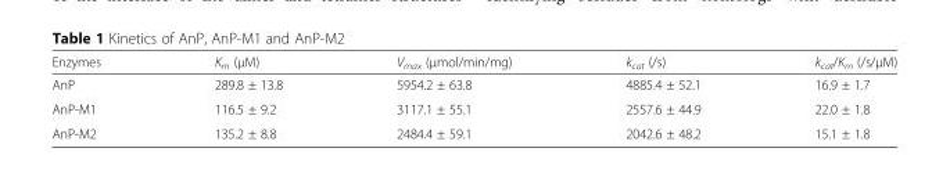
<table><thead><tr><td>Enzymes</td><td>K<sub>m</sub> (μM)</td><td>V<sub>max</sub> (μmol/min/mg)</td><td>k<sub>cat</sub> (/s)</td><td>k<sub>cat</sub>/K<sub>m</sub> (/s/μM)</td></tr></thead><tbody><tr><td>AnP</td><td>289.8 ± 13.8</td><td>5954.2 ± 63.8</td><td>4885.4 ± 52.1</td><td>16.9 ± 1.7</td></tr><tr><td>AnP-M1</td><td>116.5 ± 9.2</td><td>3117.1 ± 55.1</td><td>2557.6 ± 44.9</td><td>22.0 ± 1.8</td></tr><tr><td>AnP-M2</td><td>135.2 ± 8.8</td><td>2484.4 ± 59.1</td><td>2042.6 ± 48.2</td><td>15.1 ± 1.8</td></tr></tbody></table>